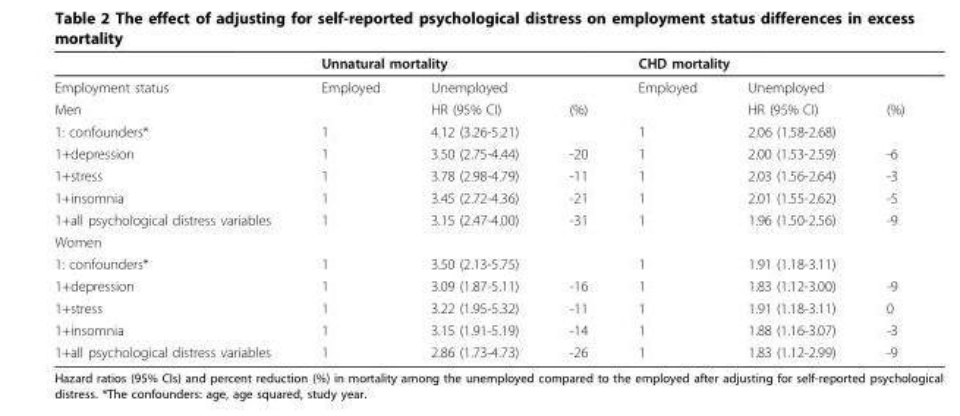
<table><thead><tr><td rowspan="2">Employment status</td><td colspan="2">Unnatural mortality</td><td rowspan="2"></td><td colspan="2">CHD mortality</td><td rowspan="2"></td></tr><tr><td>Employed</td><td>Unemployed</td><td>Employed</td><td>Unemployed</td></tr></thead><tbody><tr><td>Men</td><td></td><td>HR (95% CI)</td><td>(%)</td><td></td><td>HR (95% CI)</td><td>(%)</td></tr><tr><td>1: confounders*</td><td>1</td><td>4.12 (3.26-5.21)</td><td></td><td>1</td><td>2.06 (1.58-2.68)</td><td></td></tr><tr><td>1+depression</td><td>1</td><td>3.50 (2.75-4.44)</td><td>-20</td><td>1</td><td>2.00 (1.53-2.59)</td><td>-6</td></tr><tr><td>1+stress</td><td>1</td><td>3.78 (2.98-4.79)</td><td>-11</td><td>1</td><td>2.03 (1.56-2.64)</td><td>-3</td></tr><tr><td>1+insomnia</td><td>1</td><td>3.45 (2.72-4.36)</td><td>-21</td><td>1</td><td>2.01 (1.55-2.62)</td><td>-5</td></tr><tr><td>1+all psychological distress variables</td><td>1</td><td>3.15 (2.47-4.00)</td><td>-31</td><td>1</td><td>1.96 (1.50-2.56)</td><td>-9</td></tr><tr><td colspan="7">Women</td></tr><tr><td>1: confounders*</td><td>1</td><td>3.50 (2.13-5.75)</td><td></td><td>1</td><td>1.91 (1.18-3.11)</td><td></td></tr><tr><td>1+depression</td><td>1</td><td>3.09 (1.87-5.11)</td><td>-16</td><td>1</td><td>1.83 (1.12-3.00)</td><td>-9</td></tr><tr><td>1+stress</td><td>1</td><td>3.22 (1.95-5.32)</td><td>-11</td><td>1</td><td>1.91 (1.18-3.11)</td><td>0</td></tr><tr><td>1+insomnia</td><td>1</td><td>3.15 (1.91-5.19)</td><td>-14</td><td>1</td><td>1.88 (1.16-3.07)</td><td>-3</td></tr><tr><td>1+all psychological distress variables</td><td>1</td><td>2.86 (1.73-4.73)</td><td>-26</td><td>1</td><td>1.83 (1.12-2.99)</td><td>-9</td></tr></tbody></table>